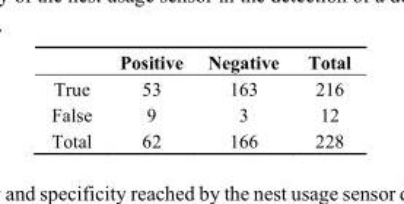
<table><thead><tr><td></td><td>Positive</td><td>Negative</td><td>Total</td></tr></thead><tbody><tr><td>True</td><td>53</td><td>163</td><td>216</td></tr><tr><td>False</td><td>9</td><td>3</td><td>12</td></tr><tr><td>Total</td><td>62</td><td>166</td><td>228</td></tr></tbody></table>